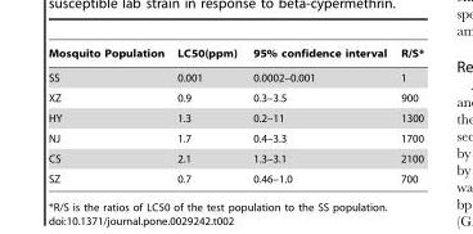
<table><thead><tr><td>Mosquito Population</td><td>LC50(ppm)</td><td>95% confidence interval</td><td>R/S*</td></tr></thead><tbody><tr><td>SS</td><td>0.001</td><td>0.0002–0.001</td><td>1</td></tr><tr><td>XZ</td><td>0.9</td><td>0.3–3.5</td><td>900</td></tr><tr><td>HY</td><td>1.3</td><td>0.2–11</td><td>1300</td></tr><tr><td>NJ</td><td>1.7</td><td>0.4–3.3</td><td>1700</td></tr><tr><td>CS</td><td>2.1</td><td>1.3–3.1</td><td>2100</td></tr><tr><td>SZ</td><td>0.7</td><td>0.46–1.0</td><td>700</td></tr></tbody></table>